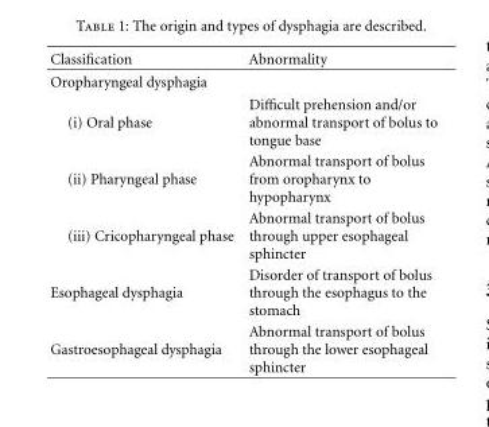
<table><thead><tr><td>Classification</td><td>Abnormality</td></tr></thead><tbody><tr><td colspan="2">Oropharyngeal dysphagia</td></tr><tr><td>(i) Oral phase</td><td>Difficult prehension and/or abnormal transport of bolus to tongue base</td></tr><tr><td>(ii) Pharyngeal phase</td><td>Abnormal transport of bolus from oropharynx to hypopharynx</td></tr><tr><td>(iii) Cricopharyngeal phase</td><td>Abnormal transport of bolus through upper esophageal sphincter</td></tr><tr><td>Esophageal dysphagia</td><td>Disorder of transport of bolus through the esophagus to the stomach</td></tr><tr><td>Gastroesophageal dysphagia</td><td>Abnormal transport of bolus through the lower esophageal sphincter</td></tr></tbody></table>